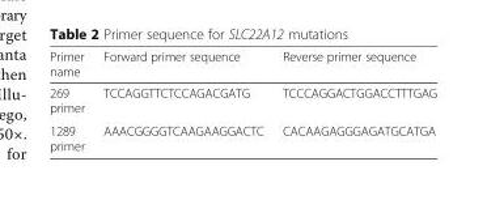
<table><thead><tr><td>Primer name</td><td>Forward primer sequence</td><td>Reverse primer sequence</td></tr></thead><tbody><tr><td>269 primer</td><td>TCCAGGTTCTCCAGACGATG</td><td>TCCCAGGACTGGACCTTTGAG</td></tr><tr><td>1289 primer</td><td>AAACGGGGTCAAGAAGGACTC</td><td>CACAAGAGGGAGATGCATGA</td></tr></tbody></table>